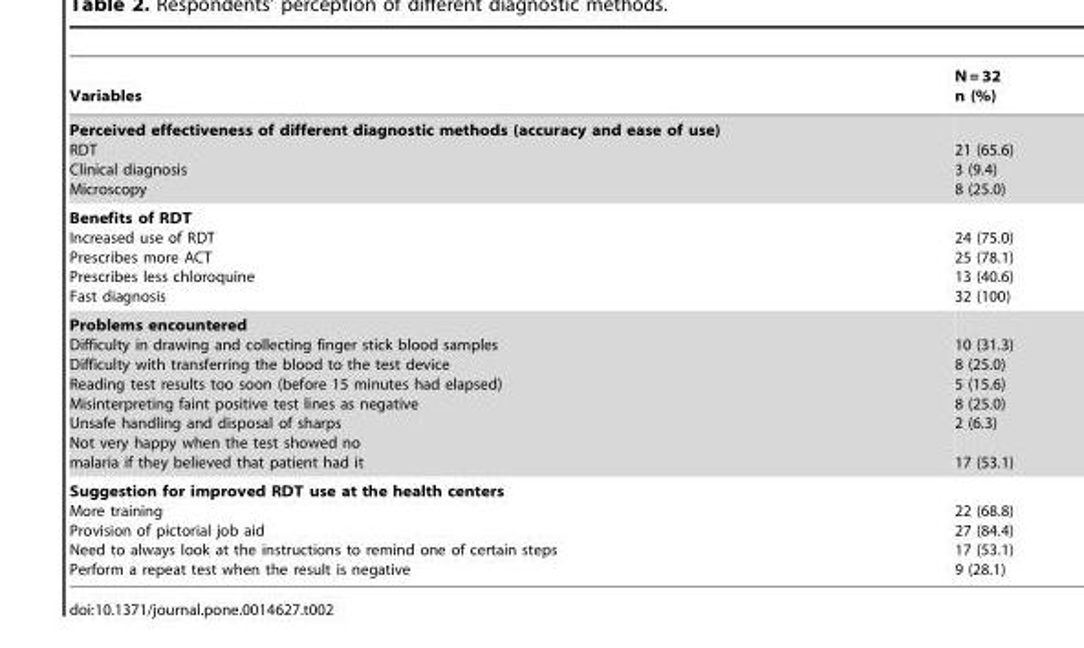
<table><thead><tr><td>Variables</td><td>N = 32 n (%)</td></tr></thead><tbody><tr><td>Perceived effectiveness of different diagnostic methods (accuracy and ease of use) RDT Clinical diagnosis Microscopy</td><td>21 (65.6) 3 (9.4) 8 (25.0)</td></tr><tr><td>Benefits of RDT Increased use of RDT Prescribes more ACT Prescribes less chloroquine Fast diagnosis</td><td>24 (75.0) 25 (78.1) 13 (40.6) 32 (100)</td></tr><tr><td>Problems encountered Difficulty in drawing and collecting finger stick blood samples Difficulty with transferring the blood to the test device Reading test results too soon (before 15 minutes had elapsed) Misinterpreting faint positive test lines as negative Unsafe handling and disposal of sharps Not very happy when the test showed no malaria if they believed that patient had it</td><td>10 (31.3) 8 (25.0) 5 (15.6) 8 (25.0) 2 (6.3) 17 (53.1)</td></tr><tr><td>Suggestion for improved RDT use at the health centers More training Provision of pictorial job aid Need to always look at the instructions to remind one of certain steps Perform a repeat test when the result is negative</td><td>22 (68.8) 27 (84.4) 17 (53.1) 9 (28.1)</td></tr></tbody></table>